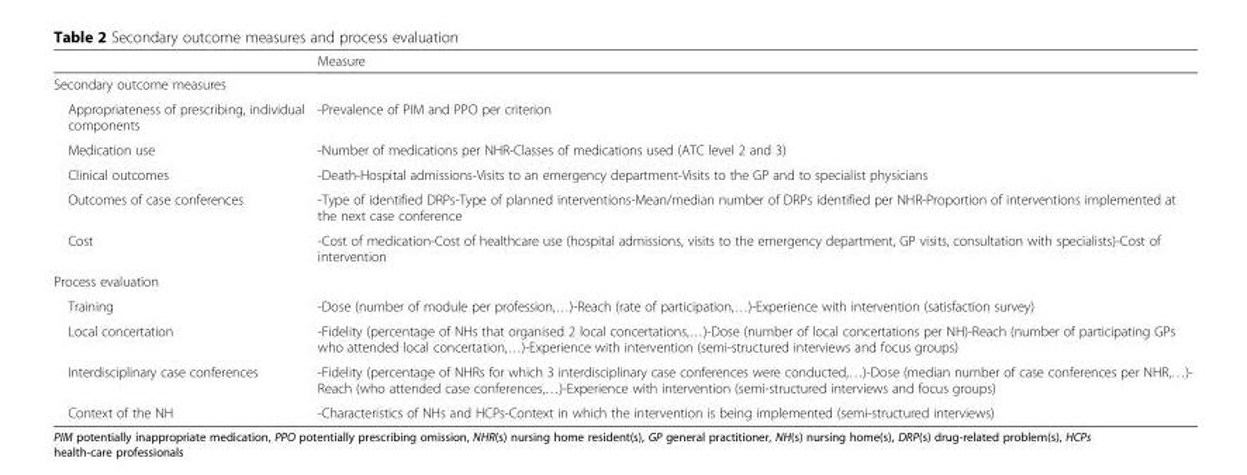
<table><thead><tr><td></td><td>Measure</td></tr></thead><tbody><tr><td colspan="2">Secondary outcome measures</td></tr><tr><td>Appropriateness of prescribing, individual components</td><td>-Prevalence of PIM and PPO per criterion</td></tr><tr><td>Medication use</td><td>-Number of medications per NHR-Classes of medications used (ATC level 2 and 3)</td></tr><tr><td>Clinical outcomes</td><td>-Death-Hospital admissions-Visits to an emergency department-Visits to the GP and to specialist physicians</td></tr><tr><td>Outcomes of case conferences</td><td>-Type of identified DRPs-Type of planned interventions-Mean/median number of DRPs identified per NHR-Proportion of interventions implemented at the next case conference</td></tr><tr><td>Cost</td><td>-Cost of medication-Cost of healthcare use (hospital admissions, visits to the emergency department, GP visits, consultation with specialists)-Cost of intervention</td></tr><tr><td colspan="2">Process evaluation</td></tr><tr><td>Training</td><td>-Dose (number of module per profession,…)-Reach (rate of participation,…)-Experience with intervention (satisfaction survey)</td></tr><tr><td>Local concertation</td><td>-Fidelity (percentage of NHs that organised 2 local concertations,…)-Dose (number of local concertations per NH)-Reach (number of participating GPs who attended local concertation,…)-Experience with intervention (semi-structured interviews and focus groups)</td></tr><tr><td>Interdisciplinary case conferences</td><td>-Fidelity (percentage of NHRs for which 3 interdisciplinary case conferences were conducted,…)-Dose (median number of case conferences per NHR,…)- Reach (who attended case conferences,…)-Experience with intervention (semi-structured interviews and focus groups)</td></tr><tr><td>Context of the NH</td><td>-Characteristics of NHs and HCPs-Context in which the intervention is being implemented (semi-structured interviews)</td></tr></tbody></table>